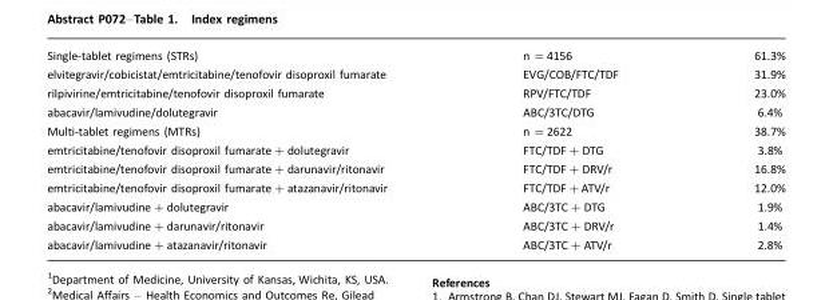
<table><tbody><tr><td>Single-tablet regimens (STRs)</td><td>n =4156</td><td>61.3%</td></tr><tr><td>elvitegravir/cobicistat/emtricitabine/tenofovir disoproxil fumarate</td><td>EVG/COB/FTC/TDF</td><td>31.9%</td></tr><tr><td>rilpivirine/emtricitabine/tenofovir disoproxil fumarate</td><td>RPV/FTC/TDF</td><td>23.0%</td></tr><tr><td>abacavir/lamivudine/dolutegravir</td><td>ABC/3TC/DTG</td><td>6.4%</td></tr><tr><td>Multi-tablet regimens (MTRs)</td><td>n =2622</td><td>38.7%</td></tr><tr><td>emtricitabine/tenofovir disoproxil fumarate+dolutegravir</td><td>FTC/TDF+DTG</td><td>3.8%</td></tr><tr><td>emtricitabine/tenofovir disoproxil fumarate+darunavir/ritonavir</td><td>FTC/TDF+DRV/r</td><td>16.8%</td></tr><tr><td>emtricitabine/tenofovir disoproxil fumarate+atazanavir/ritonavir</td><td>FTC/TDF+ATV/r</td><td>12.0%</td></tr><tr><td>abacavir/lamivudine+dolutegravir</td><td>ABC/3TC+DTG</td><td>1.9%</td></tr><tr><td>abacavir/lamivudine+darunavir/ritonavir</td><td>ABC/3TC+DRV/r</td><td>1.4%</td></tr><tr><td>abacavir/lamivudine+atazanavir/ritonavir</td><td>ABC/3TC+ATV/r</td><td>2.8%</td></tr></tbody></table>